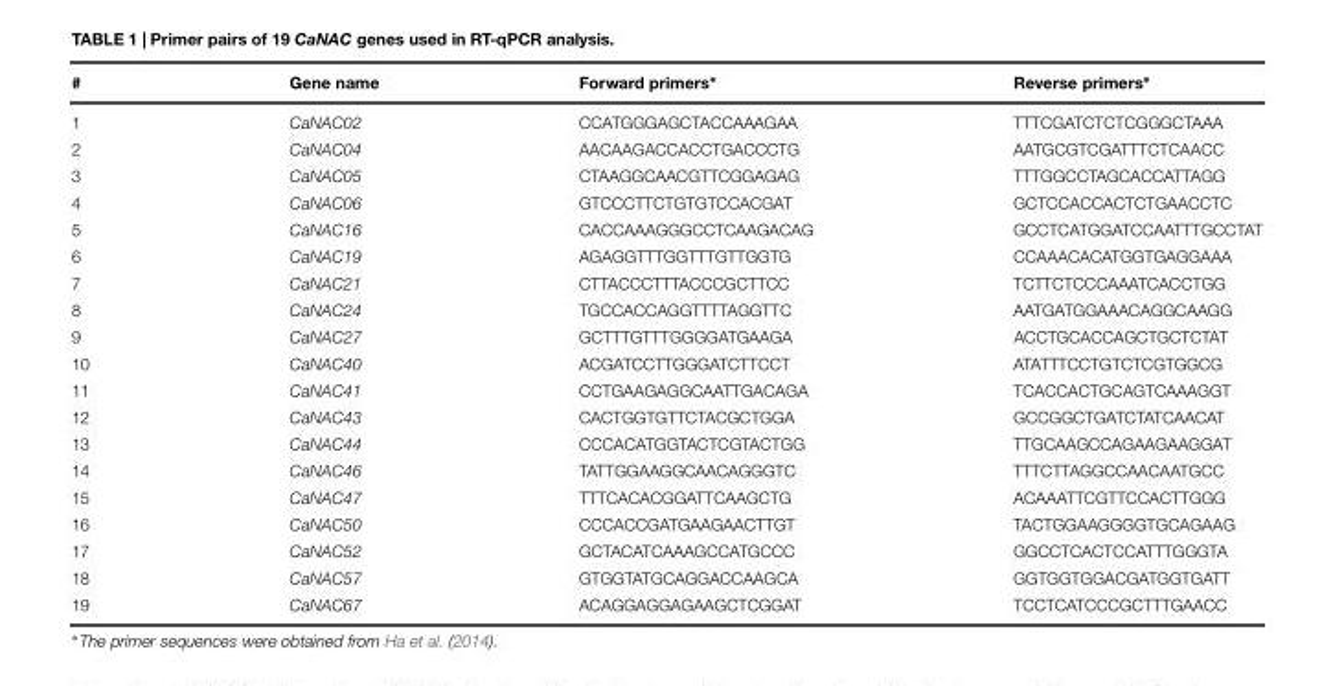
<table><thead><tr><td>#</td><td>Gene name</td><td>Forward primers∗</td><td>Reverse primers∗</td></tr></thead><tbody><tr><td>1</td><td>CaNAC02</td><td>CCATGGGAGCTACCAAAGAA</td><td>TTTCGATCTCTCGGGCTAAA</td></tr><tr><td>2</td><td>CaNAC04</td><td>AACAAGACCACCTGACCCTG</td><td>AATGCGTCGATTTCTCAACC</td></tr><tr><td>3</td><td>CaNAC05</td><td>CTAAGGCAACGTTCGGAGAG</td><td>TTTGGCCTAGCACCATTAGG</td></tr><tr><td>4</td><td>CaNAC06</td><td>GTCCCTTCTGTGTCCACGAT</td><td>GCTCCACCACTCTGAACCTC</td></tr><tr><td>5</td><td>CaNAC16</td><td>CACCAAAGGGCCTCAAGACAG</td><td>GCCTCATGGATCCAATTTGCCTAT</td></tr><tr><td>6</td><td>CaNAC19</td><td>AGAGGTTTGGTTTGTTGGTG</td><td>CCAAACACATGGTGAGGAAA</td></tr><tr><td>7</td><td>CaNAC21</td><td>CTTACCCTTTACCCGCTTCC</td><td>TCTTCTCCCAAATCACCTGG</td></tr><tr><td>8</td><td>CaNAC24</td><td>TGCCACCAGGTTTTAGGTTC</td><td>AATGATGGAAACAGGCAAGG</td></tr><tr><td>9</td><td>CaNAC27</td><td>GCTTTGTTTGGGGATGAAGA</td><td>ACCTGCACCAGCTGCTCTAT</td></tr><tr><td>10</td><td>CaNAC40</td><td>ACGATCCTTGGGATCTTCCT</td><td>ATATTTCCTGTCTCGTGGCG</td></tr><tr><td>11</td><td>CaNAC41</td><td>CCTGAAGAGGCAATTGACAGA</td><td>TCACCACTGCAGTCAAAGGT</td></tr><tr><td>12</td><td>CaNAC43</td><td>CACTGGTGTTCTACGCTGGA</td><td>GCCGGCTGATCTATCAACAT</td></tr><tr><td>13</td><td>CaNAC44</td><td>CCCACATGGTACTCGTACTGG</td><td>TTGCAAGCCAGAAGAAGGAT</td></tr><tr><td>14</td><td>CaNAC46</td><td>TATTGGAAGGCAACAGGGTC</td><td>TTTCTTAGGCCAACAATGCC</td></tr><tr><td>15</td><td>CaNAC47</td><td>TTTCACACGGATTCAAGCTG</td><td>ACAAATTCGTTCCACTTGGG</td></tr><tr><td>16</td><td>CaNAC50</td><td>CCCACCGATGAAGAACTTGT</td><td>TACTGGAAGGGGTGCAGAAG</td></tr><tr><td>17</td><td>CaNAC52</td><td>GCTACATCAAAGCCATGCCC</td><td>GGCCTCACTCCATTTGGGTA</td></tr><tr><td>18</td><td>CaNAC57</td><td>GTGGTATGCAGGACCAAGCA</td><td>GGTGGTGGACGATGGTGATT</td></tr><tr><td>19</td><td>CaNAC67</td><td>ACAGGAGGAGAAGCTCGGAT</td><td>TCCTCATCCCGCTTTGAACC</td></tr></tbody></table>